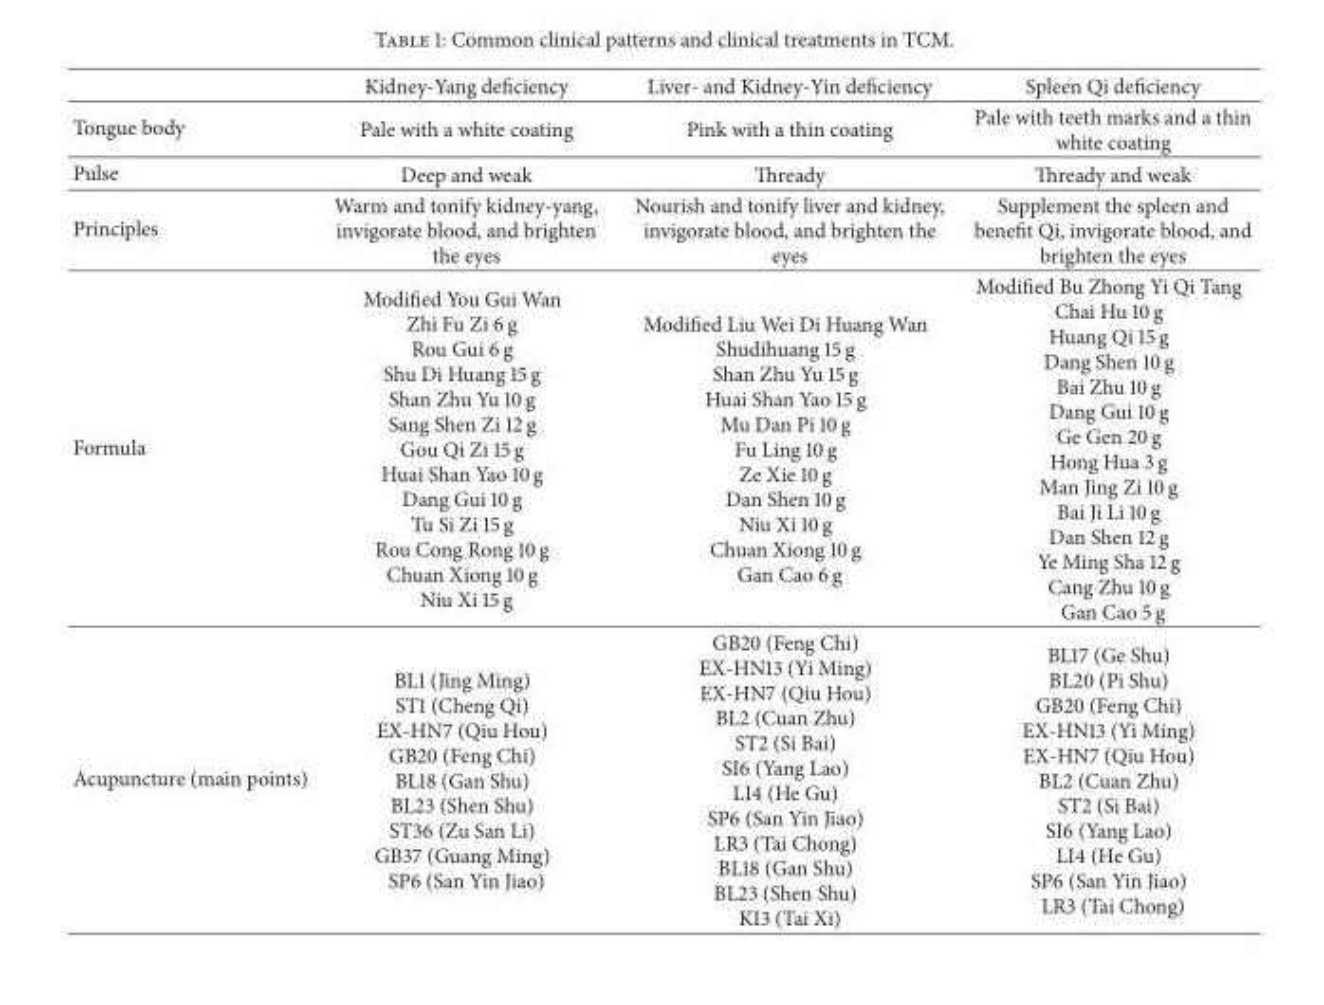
<table><thead><tr><td></td><td>Kidney-Yang deficiency</td><td>Liver- and Kidney-Yin deficiency</td><td>Spleen Qi deficiency</td></tr></thead><tbody><tr><td>Tongue body</td><td>Pale with a white coating</td><td>Pink with a thin coating</td><td>Pale with teeth marks and a thin white coating</td></tr><tr><td>Pulse</td><td>Deep and weak</td><td>Thready</td><td>Thready and weak</td></tr><tr><td>Principles</td><td>Warm and tonify kidney-yang, invigorate blood, and brighten the eyes</td><td>Nourish and tonify liver and kidney, invigorate blood, and brighten the eyes</td><td>Supplement the spleen and benefit Qi, invigorate blood, and brighten the eyes</td></tr><tr><td>Formula</td><td>Modified You Gui Wan Zhi Fu Zi 6 g Rou Gui 6 g Shu Di Huang 15 g Shan Zhu Yu 10 g Sang Shen Zi 12 g Gou Qi Zi 15 g Huai Shan Yao 10 g Dang Gui 10 g Tu Si Zi 15 g Rou Cong Rong 10 g Chuan Xiong 10 g Niu Xi 15 g</td><td>Modified Liu Wei Di Huang Wan Shudihuang 15 g Shan Zhu Yu 15 g Huai Shan Yao 15 g Mu Dan Pi 10 g Fu Ling 10 g Ze Xie 10 g Dan Shen 10 g Niu Xi 10 g Chuan Xiong 10 g Gan Cao 6 g</td><td>Modified Bu Zhong Yi Qi Tang Chai Hu 10 g Huang Qi 15 g Dang Shen 10 g Bai Zhu 10 g Dang Gui 10 g Ge Gen 20 g Hong Hua 3 g Man Jing Zi 10 g Bai Ji Li 10 g Dan Shen 12 g Ye Ming Sha 12 g Cang Zhu 10 g Gan Cao 5 g</td></tr><tr><td>Acupuncture (main points)</td><td>BL1 (Jing Ming) ST1 (Cheng Qi) EX-HN7 (Qiu Hou) GB20 (Feng Chi) BL18 (Gan Shu) BL23 (Shen Shu) ST36 (Zu San Li) GB37 (Guang Ming) SP6 (San Yin Jiao)</td><td>GB20 (Feng Chi) EX-HN13 (Yi Ming) EX-HN7 (Qiu Hou) BL2 (Cuan Zhu) ST2 (Si Bai) SI6 (Yang Lao) LI4 (He Gu) SP6 (San Yin Jiao) LR3 (Tai Chong) BL18 (Gan Shu) BL23 (Shen Shu) KI3 (Tai Xi)</td><td>BL17 (Ge Shu) BL20 (Pi Shu) GB20 (Feng Chi) EX-HN13 (Yi Ming) EX-HN7 (Qiu Hou) BL2 (Cuan Zhu) ST2 (Si Bai) SI6 (Yang Lao) LI4 (He Gu) SP6 (San Yin Jiao) LR3 (Tai Chong)</td></tr></tbody></table>